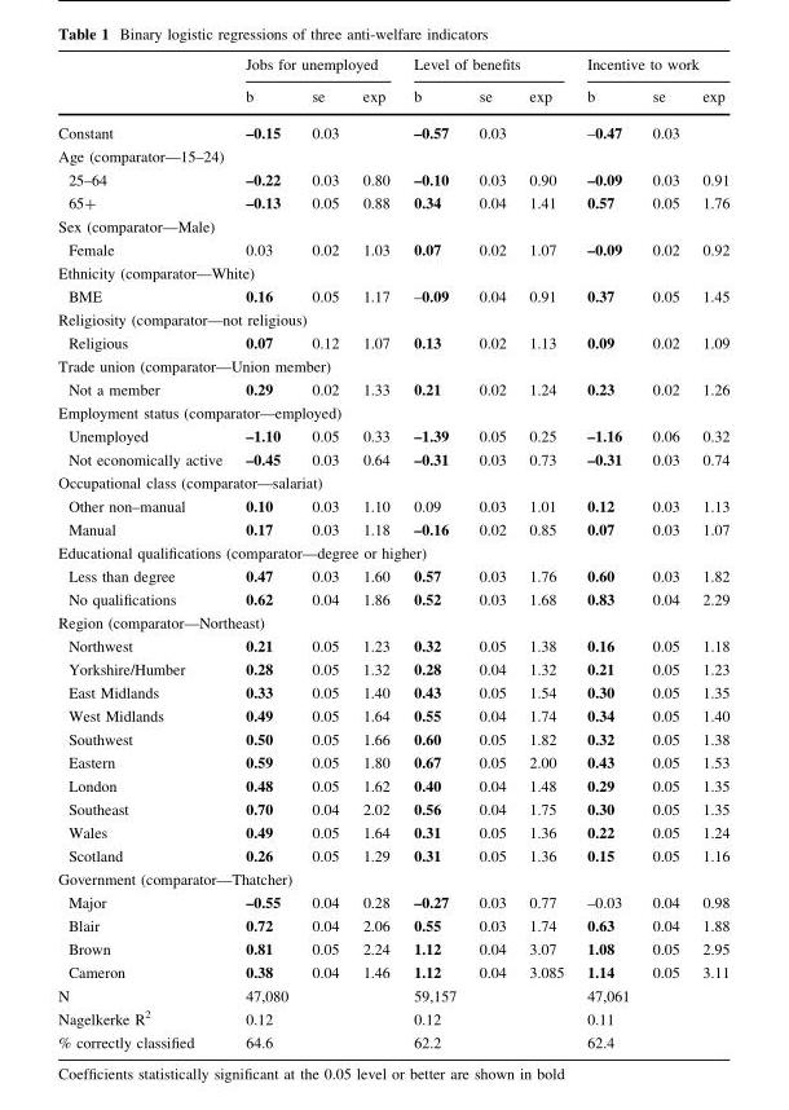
<table><thead><tr><td rowspan="2"></td><td colspan="3">Jobs for unemployed</td><td colspan="3">Level of benefits</td><td colspan="3">Incentive to work</td></tr><tr><td>b</td><td>se</td><td>exp</td><td>b</td><td>se</td><td>exp</td><td>b</td><td>se</td><td>exp</td></tr></thead><tbody><tr><td>Constant</td><td>–0.15</td><td>0.03</td><td></td><td>–0.57</td><td>0.03</td><td></td><td>–0.47</td><td>0.03</td><td></td></tr><tr><td colspan="10">Age (comparator—15–24)</td></tr><tr><td>25–64</td><td>–0.22</td><td>0.03</td><td>0.80</td><td>–0.10</td><td>0.03</td><td>0.90</td><td>–0.09</td><td>0.03</td><td>0.91</td></tr><tr><td>65+</td><td>–0.13</td><td>0.05</td><td>0.88</td><td>0.34</td><td>0.04</td><td>1.41</td><td>0.57</td><td>0.05</td><td>1.76</td></tr><tr><td colspan="10">Sex (comparator—Male)</td></tr><tr><td>Female</td><td>0.03</td><td>0.02</td><td>1.03</td><td>0.07</td><td>0.02</td><td>1.07</td><td>–0.09</td><td>0.02</td><td>0.92</td></tr><tr><td colspan="10">Ethnicity (comparator—White)</td></tr><tr><td>BME</td><td>0.16</td><td>0.05</td><td>1.17</td><td>–0.09</td><td>0.04</td><td>0.91</td><td>0.37</td><td>0.05</td><td>1.45</td></tr><tr><td colspan="10">Religiosity (comparator—not religious)</td></tr><tr><td>Religious</td><td>0.07</td><td>0.12</td><td>1.07</td><td>0.13</td><td>0.02</td><td>1.13</td><td>0.09</td><td>0.02</td><td>1.09</td></tr><tr><td colspan="10">Trade union (comparator—Union member)</td></tr><tr><td>Not a member</td><td>0.29</td><td>0.02</td><td>1.33</td><td>0.21</td><td>0.02</td><td>1.24</td><td>0.23</td><td>0.02</td><td>1.26</td></tr><tr><td colspan="10">Employment status (comparator—employed)</td></tr><tr><td>Unemployed</td><td>–1.10</td><td>0.05</td><td>0.33</td><td>–1.39</td><td>0.05</td><td>0.25</td><td>–1.16</td><td>0.06</td><td>0.32</td></tr><tr><td>Not economically active</td><td>–0.45</td><td>0.03</td><td>0.64</td><td>–0.31</td><td>0.03</td><td>0.73</td><td>–0.31</td><td>0.03</td><td>0.74</td></tr><tr><td colspan="10">Occupational class (comparator—salariat)</td></tr><tr><td>Other non–manual</td><td>0.10</td><td>0.03</td><td>1.10</td><td>0.09</td><td>0.03</td><td>1.01</td><td>0.12</td><td>0.03</td><td>1.13</td></tr><tr><td>Manual</td><td>0.17</td><td>0.03</td><td>1.18</td><td>–0.16</td><td>0.02</td><td>0.85</td><td>0.07</td><td>0.03</td><td>1.07</td></tr><tr><td colspan="10">Educational qualifications (comparator—degree or higher)</td></tr><tr><td>Less than degree</td><td>0.47</td><td>0.03</td><td>1.60</td><td>0.57</td><td>0.03</td><td>1.76</td><td>0.60</td><td>0.03</td><td>1.82</td></tr><tr><td>No qualifications</td><td>0.62</td><td>0.04</td><td>1.86</td><td>0.52</td><td>0.03</td><td>1.68</td><td>0.83</td><td>0.04</td><td>2.29</td></tr><tr><td colspan="10">Region (comparator—Northeast)</td></tr><tr><td>Northwest</td><td>0.21</td><td>0.05</td><td>1.23</td><td>0.32</td><td>0.05</td><td>1.38</td><td>0.16</td><td>0.05</td><td>1.18</td></tr><tr><td>Yorkshire/Humber</td><td>0.28</td><td>0.05</td><td>1.32</td><td>0.28</td><td>0.04</td><td>1.32</td><td>0.21</td><td>0.05</td><td>1.23</td></tr><tr><td>East Midlands</td><td>0.33</td><td>0.05</td><td>1.40</td><td>0.43</td><td>0.05</td><td>1.54</td><td>0.30</td><td>0.05</td><td>1.35</td></tr><tr><td>West Midlands</td><td>0.49</td><td>0.05</td><td>1.64</td><td>0.55</td><td>0.04</td><td>1.74</td><td>0.34</td><td>0.05</td><td>1.40</td></tr><tr><td>Southwest</td><td>0.50</td><td>0.05</td><td>1.66</td><td>0.60</td><td>0.05</td><td>1.82</td><td>0.32</td><td>0.05</td><td>1.38</td></tr><tr><td>Eastern</td><td>0.59</td><td>0.05</td><td>1.80</td><td>0.67</td><td>0.05</td><td>2.00</td><td>0.43</td><td>0.05</td><td>1.53</td></tr><tr><td>London</td><td>0.48</td><td>0.05</td><td>1.62</td><td>0.40</td><td>0.04</td><td>1.48</td><td>0.29</td><td>0.05</td><td>1.35</td></tr><tr><td>Southeast</td><td>0.70</td><td>0.04</td><td>2.02</td><td>0.56</td><td>0.04</td><td>1.75</td><td>0.30</td><td>0.05</td><td>1.35</td></tr><tr><td>Wales</td><td>0.49</td><td>0.05</td><td>1.64</td><td>0.31</td><td>0.05</td><td>1.36</td><td>0.22</td><td>0.05</td><td>1.24</td></tr><tr><td>Scotland</td><td>0.26</td><td>0.05</td><td>1.29</td><td>0.31</td><td>0.05</td><td>1.36</td><td>0.15</td><td>0.05</td><td>1.16</td></tr><tr><td colspan="10">Government (comparator—Thatcher)</td></tr><tr><td>Major</td><td>–0.55</td><td>0.04</td><td>0.28</td><td>–0.27</td><td>0.03</td><td>0.77</td><td>–0.03</td><td>0.04</td><td>0.98</td></tr><tr><td>Blair</td><td>0.72</td><td>0.04</td><td>2.06</td><td>0.55</td><td>0.03</td><td>1.74</td><td>0.63</td><td>0.04</td><td>1.88</td></tr><tr><td>Brown</td><td>0.81</td><td>0.05</td><td>2.24</td><td>1.12</td><td>0.04</td><td>3.07</td><td>1.08</td><td>0.05</td><td>2.95</td></tr><tr><td>Cameron</td><td>0.38</td><td>0.04</td><td>1.46</td><td>1.12</td><td>0.04</td><td>3.085</td><td>1.14</td><td>0.05</td><td>3.11</td></tr><tr><td>N</td><td>47,080</td><td></td><td></td><td>59,157</td><td></td><td></td><td>47,061</td><td></td><td></td></tr><tr><td>Nagelkerke R<sup>2</sup></td><td>0.12</td><td></td><td></td><td>0.12</td><td></td><td></td><td>0.11</td><td></td><td></td></tr><tr><td>% correctly classified</td><td>64.6</td><td></td><td></td><td>62.2</td><td></td><td></td><td>62.4</td><td></td><td></td></tr></tbody></table>